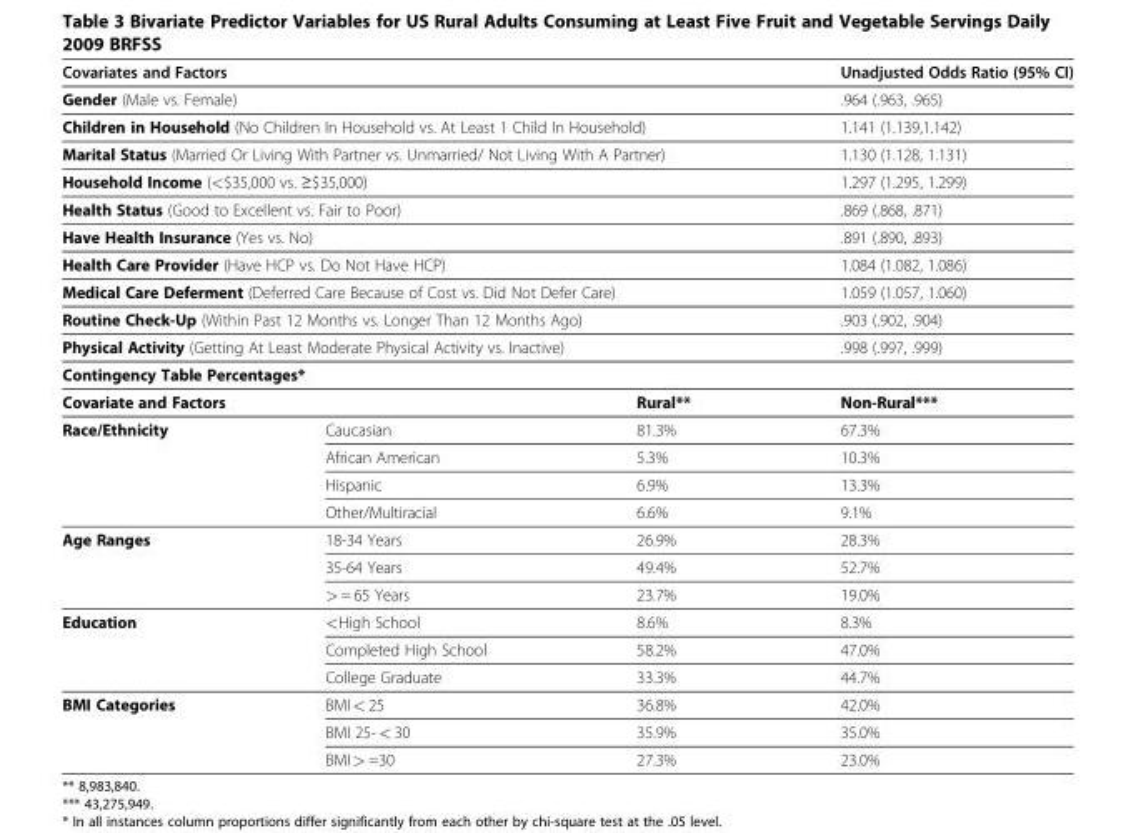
<table><thead><tr><td colspan="3">Covariates and Factors</td><td>Unadjusted Odds Ratio (95% CI)</td></tr></thead><tbody><tr><td colspan="3">Gender (Male vs. Female)</td><td>.964 (.963, .965)</td></tr><tr><td colspan="3">Children in Household (No Children In Household vs. At Least 1 Child In Household)</td><td>1.141 (1.139,1.142)</td></tr><tr><td colspan="3">Marital Status (Married Or Living With Partner vs. Unmarried/ Not Living With A Partner)</td><td>1.130 (1.128, 1.131)</td></tr><tr><td colspan="3">Household Income (&lt;$35,000 vs. ≥$35,000)</td><td>1.297 (1.295, 1.299)</td></tr><tr><td colspan="3">Health Status (Good to Excellent vs. Fair to Poor)</td><td>.869 (.868, .871)</td></tr><tr><td colspan="3">Have Health Insurance (Yes vs. No)</td><td>.891 (.890, .893)</td></tr><tr><td colspan="3">Health Care Provider (Have HCP vs. Do Not Have HCP)</td><td>1.084 (1.082, 1.086)</td></tr><tr><td colspan="3">Medical Care Deferment (Deferred Care Because of Cost vs. Did Not Defer Care)</td><td>1.059 (1.057, 1.060)</td></tr><tr><td colspan="3">Routine Check-Up (Within Past 12 Months vs. Longer Than 12 Months Ago)</td><td>.903 (.902, .904)</td></tr><tr><td colspan="3">Physical Activity (Getting At Least Moderate Physical Activity vs. Inactive)</td><td>.998 (.997, .999)</td></tr><tr><td colspan="4">Contingency Table Percentages*</td></tr><tr><td colspan="2">Covariate and Factors</td><td>Rural**</td><td>Non-Rural***</td></tr><tr><td rowspan="4">Race/Ethnicity</td><td>Caucasian</td><td>81.3%</td><td>67.3%</td></tr><tr><td>African American</td><td>5.3%</td><td>10.3%</td></tr><tr><td>Hispanic</td><td>6.9%</td><td>13.3%</td></tr><tr><td>Other/Multiracial</td><td>6.6%</td><td>9.1%</td></tr><tr><td rowspan="3">Age Ranges</td><td>18-34 Years</td><td>26.9%</td><td>28.3%</td></tr><tr><td>35-64 Years</td><td>49.4%</td><td>52.7%</td></tr><tr><td>&gt; = 65 Years</td><td>23.7%</td><td>19.0%</td></tr><tr><td rowspan="3">Education</td><td>&lt;High School</td><td>8.6%</td><td>8.3%</td></tr><tr><td>Completed High School</td><td>58.2%</td><td>47.0%</td></tr><tr><td>College Graduate</td><td>33.3%</td><td>44.7%</td></tr><tr><td rowspan="3">BMI Categories</td><td>BMI &lt; 25</td><td>36.8%</td><td>42.0%</td></tr><tr><td>BMI 25- &lt; 30</td><td>35.9%</td><td>35.0%</td></tr><tr><td>BMI &gt; =30</td><td>27.3%</td><td>23.0%</td></tr></tbody></table>